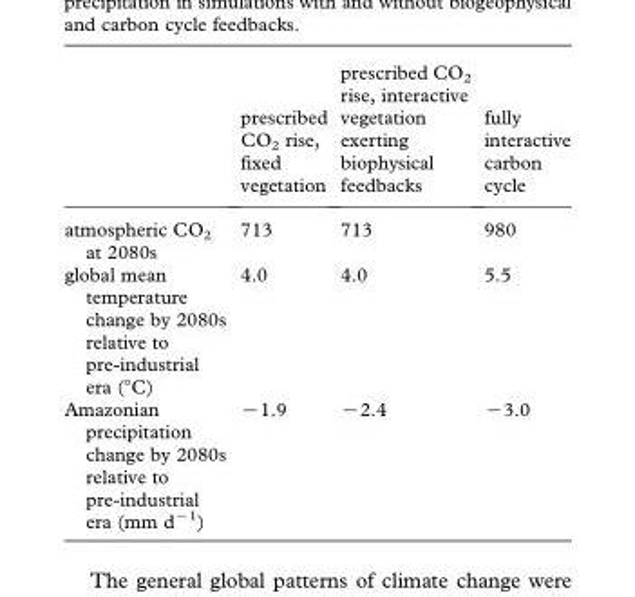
<table><thead><tr><td></td><td>prescribed CO2 rise, fixed vegetation</td><td>prescribed CO2 rise, interactive vegetation exerting biophysical feedbacks</td><td>fully interactive carbon cycle</td></tr></thead><tbody><tr><td>atmospheric CO2 at 2080s</td><td>713</td><td>713</td><td>980</td></tr><tr><td>global mean temperature change by 2080s relative to pre-industrial era (°C)</td><td>4.0</td><td>4.0</td><td>5.5</td></tr><tr><td>Amazonian precipitation change by 2080s relative to pre-industrial era (mm d−1)</td><td>−1.9</td><td>−2.4</td><td>−3.0</td></tr></tbody></table>